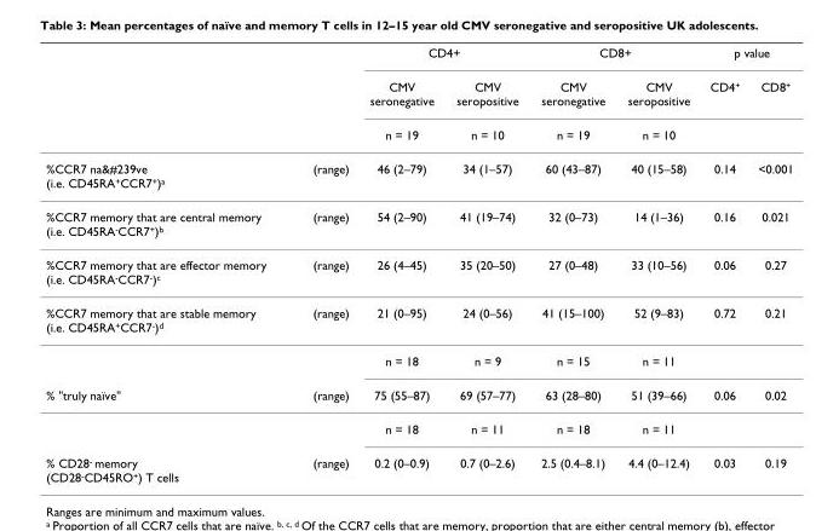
<table><thead><tr><td rowspan="3"></td><td rowspan="3"></td><td colspan="2">CD4+</td><td colspan="2">CD8+</td><td colspan="2">p value</td></tr><tr><td rowspan="2">CMV seronegative n = 19</td><td rowspan="2">CMV seropositive n = 10</td><td rowspan="2">CMV seronegative n = 19</td><td rowspan="2">CMV seropositive n = 10</td><td rowspan="2">CD4+</td><td rowspan="2">CD8+</td></tr><tr></tr></thead><tbody><tr><td>%CCR7 na&amp;#239ve (i.e. CD45RA<sup>+</sup>CCR7<sup>+</sup>)<sup>a</sup></td><td>(range)</td><td>46 (2–79)</td><td>34 (1–57)</td><td>60 (43–87)</td><td>40 (15–58)</td><td>0.14</td><td>&lt;0.001</td></tr><tr><td>%CCR7 memory that are central memory (i.e. CD45RA<sup>-</sup>CCR7<sup>+</sup>)<sup>b</sup></td><td>(range)</td><td>54 (2–90)</td><td>41 (19–74)</td><td>32 (0–73)</td><td>14 (1–36)</td><td>0.16</td><td>0.021</td></tr><tr><td>%CCR7 memory that are effector memory (i.e. CD45RA<sup>-</sup>CCR7<sup>-</sup>)<sup>c</sup></td><td>(range)</td><td>26 (4–45)</td><td>35 (20–50)</td><td>27 (0–48)</td><td>33 (10–56)</td><td>0.06</td><td>0.27</td></tr><tr><td rowspan="2">%CCR7 memory that are stable memory (i.e. CD45RA<sup>+</sup>CCR7<sup>-</sup>)<sup>d</sup></td><td>(range)</td><td>21 (0–95)</td><td>24 (0–56)</td><td>41 (15–100)</td><td>52 (9–83)</td><td>0.72</td><td>0.21</td></tr><tr><td></td><td>n = 18</td><td>n = 9</td><td>n = 15</td><td>n = 11</td><td></td><td></td></tr><tr><td rowspan="2">% &quot;truly naïve&quot;</td><td>(range)</td><td>75 (55–87)</td><td>69 (57–77)</td><td>63 (28–80)</td><td>51 (39–66)</td><td>0.06</td><td>0.02</td></tr><tr><td></td><td>n = 18</td><td>n = 11</td><td>n = 18</td><td>n = 11</td><td></td><td></td></tr><tr><td>% CD28<sup>-</sup> memory (CD28<sup>-</sup>CD45RO<sup>+</sup>) T cells</td><td>(range)</td><td>0.2 (0–0.9)</td><td>0.7 (0–2.6)</td><td>2.5 (0.4–8.1)</td><td>4.4 (0–12.4)</td><td>0.03</td><td>0.19</td></tr></tbody></table>